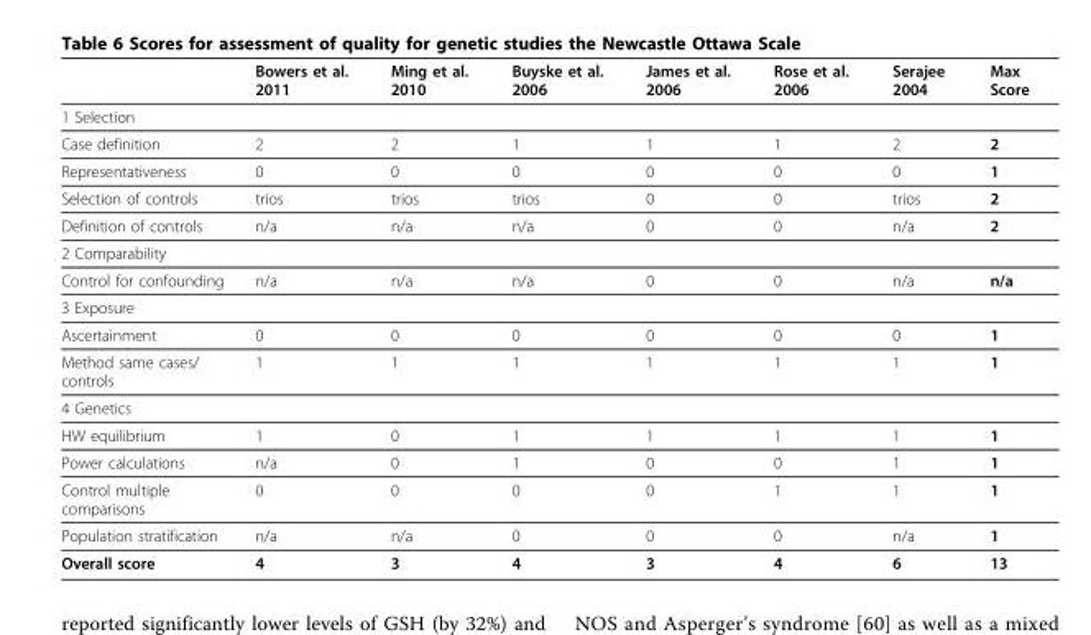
<table><thead><tr><td></td><td>Bowers et al. 2011</td><td>Ming et al. 2010</td><td>Buyske et al. 2006</td><td>James et al. 2006</td><td>Rose et al. 2006</td><td>Serajee 2004</td><td>Max Score</td></tr></thead><tbody><tr><td colspan="8">1 Selection</td></tr><tr><td>Case definition</td><td>2</td><td>2</td><td>1</td><td>1</td><td>1</td><td>2</td><td>2</td></tr><tr><td>Representativeness</td><td>0</td><td>0</td><td>0</td><td>0</td><td>0</td><td>0</td><td>1</td></tr><tr><td>Selection of controls</td><td>trios</td><td>trios</td><td>trios</td><td>0</td><td>0</td><td>trios</td><td>2</td></tr><tr><td>Definition of controls</td><td>n/a</td><td>n/a</td><td>n/a</td><td>0</td><td>0</td><td>n/a</td><td>2</td></tr><tr><td colspan="8">2 Comparability</td></tr><tr><td>Control for confounding</td><td>n/a</td><td>n/a</td><td>n/a</td><td>0</td><td>0</td><td>n/a</td><td>n/a</td></tr><tr><td colspan="8">3 Exposure</td></tr><tr><td>Ascertainment</td><td>0</td><td>0</td><td>0</td><td>0</td><td>0</td><td>0</td><td>1</td></tr><tr><td>Method same cases/ controls</td><td>1</td><td>1</td><td>1</td><td>1</td><td>1</td><td>1</td><td>1</td></tr><tr><td colspan="8">4 Genetics</td></tr><tr><td>HW equilibrium</td><td>1</td><td>0</td><td>1</td><td>1</td><td>1</td><td>1</td><td>1</td></tr><tr><td>Power calculations</td><td>n/a</td><td>0</td><td>1</td><td>0</td><td>0</td><td>1</td><td>1</td></tr><tr><td>Control multiple comparisons</td><td>0</td><td>0</td><td>0</td><td>0</td><td>1</td><td>1</td><td>1</td></tr><tr><td>Population stratification</td><td>n/a</td><td>n/a</td><td>0</td><td>0</td><td>0</td><td>n/a</td><td>1</td></tr><tr><td>Overall score</td><td>4</td><td>3</td><td>4</td><td>3</td><td>4</td><td>6</td><td>13</td></tr></tbody></table>